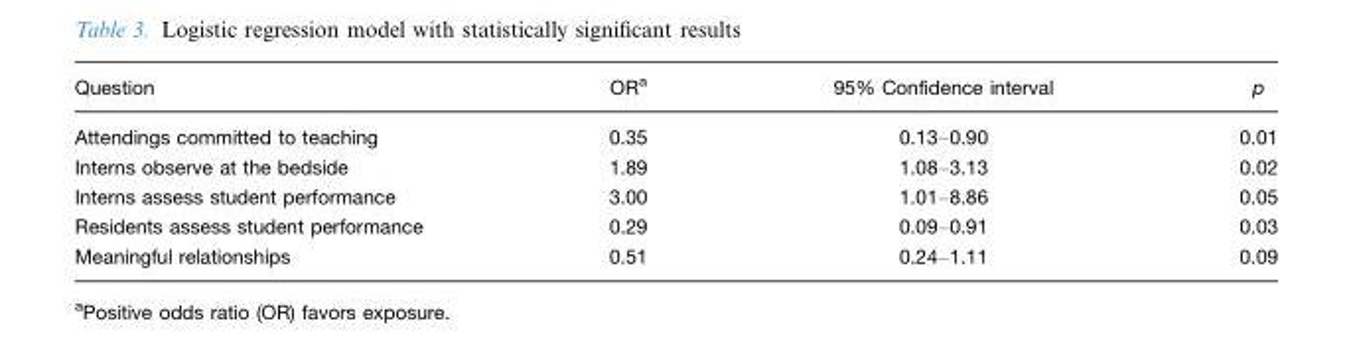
<table><thead><tr><td>Question</td><td>OR<sup>a</sup></td><td>95% Confidence interval</td><td>p</td></tr></thead><tbody><tr><td>Attendings committed to teaching</td><td>0.35</td><td>0.13–0.90</td><td>0.01</td></tr><tr><td>Interns observe at the bedside</td><td>1.89</td><td>1.08–3.13</td><td>0.02</td></tr><tr><td>Interns assess student performance</td><td>3.00</td><td>1.01–8.86</td><td>0.05</td></tr><tr><td>Residents assess student performance</td><td>0.29</td><td>0.09–0.91</td><td>0.03</td></tr><tr><td>Meaningful relationships</td><td>0.51</td><td>0.24–1.11</td><td>0.09</td></tr></tbody></table>